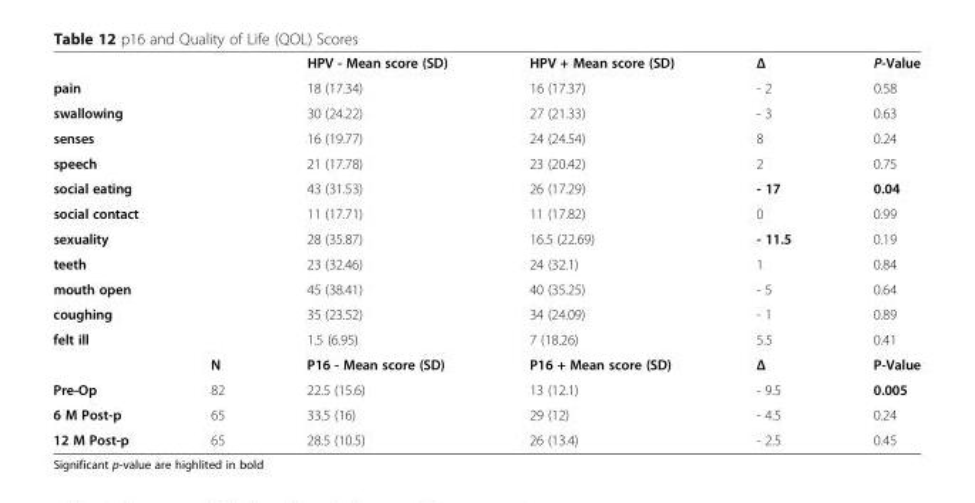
<table><thead><tr><td></td><td></td><td>HPV - Mean score (SD)</td><td>HPV + Mean score (SD)</td><td>Δ</td><td>P-Value</td></tr></thead><tbody><tr><td colspan="2">pain</td><td>18 (17.34)</td><td>16 (17.37)</td><td>- 2</td><td>0.58</td></tr><tr><td colspan="2">swallowing</td><td>30 (24.22)</td><td>27 (21.33)</td><td>- 3</td><td>0.63</td></tr><tr><td colspan="2">senses</td><td>16 (19.77)</td><td>24 (24.54)</td><td>8</td><td>0.24</td></tr><tr><td colspan="2">speech</td><td>21 (17.78)</td><td>23 (20.42)</td><td>2</td><td>0.75</td></tr><tr><td colspan="2">social eating</td><td>43 (31.53)</td><td>26 (17.29)</td><td>- 17</td><td>0.04</td></tr><tr><td colspan="2">social contact</td><td>11 (17.71)</td><td>11 (17.82)</td><td>0</td><td>0.99</td></tr><tr><td colspan="2">sexuality</td><td>28 (35.87)</td><td>16.5 (22.69)</td><td>- 11.5</td><td>0.19</td></tr><tr><td colspan="2">teeth</td><td>23 (32.46)</td><td>24 (32.1)</td><td>1</td><td>0.84</td></tr><tr><td colspan="2">mouth open</td><td>45 (38.41)</td><td>40 (35.25)</td><td>- 5</td><td>0.64</td></tr><tr><td colspan="2">coughing</td><td>35 (23.52)</td><td>34 (24.09)</td><td>- 1</td><td>0.89</td></tr><tr><td colspan="2">felt ill</td><td>1.5 (6.95)</td><td>7 (18.26)</td><td>5.5</td><td>0.41</td></tr><tr><td></td><td>N</td><td>P16 - Mean score (SD)</td><td>P16 + Mean score (SD)</td><td>Δ</td><td>P-Value</td></tr><tr><td>Pre-Op</td><td>82</td><td>22.5 (15.6)</td><td>13 (12.1)</td><td>- 9.5</td><td>0.005</td></tr><tr><td>6 M Post-p</td><td>65</td><td>33.5 (16)</td><td>29 (12)</td><td>- 4.5</td><td>0.24</td></tr><tr><td>12 M Post-p</td><td>65</td><td>28.5 (10.5)</td><td>26 (13.4)</td><td>- 2.5</td><td>0.45</td></tr></tbody></table>